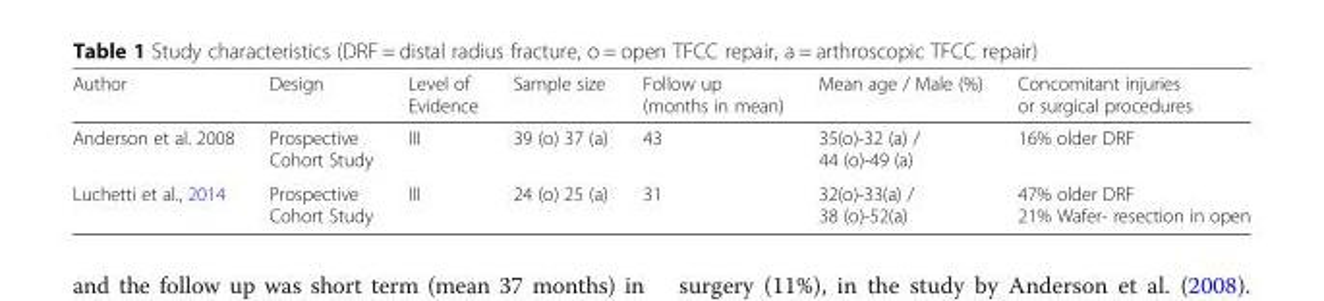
<table><thead><tr><td>Author</td><td>Design</td><td>Level of Evidence</td><td>Sample size</td><td>Follow up (months in mean)</td><td>Mean age / Male (%)</td><td>Concomitant injuries or surgical procedures</td></tr></thead><tbody><tr><td>Anderson et al. 2008</td><td>Prospective Cohort Study</td><td>III</td><td>39 (o) 37 (a)</td><td>43</td><td>35(o)-32 (a) / 44 (o)-49 (a)</td><td>16% older DRF</td></tr><tr><td>Luchetti et al., 2014</td><td>Prospective Cohort Study</td><td>III</td><td>24 (o) 25 (a)</td><td>31</td><td>32(o)-33(a) / 38 (o)-52(a)</td><td>47% older DRF 21% Wafer- resection in open</td></tr></tbody></table>